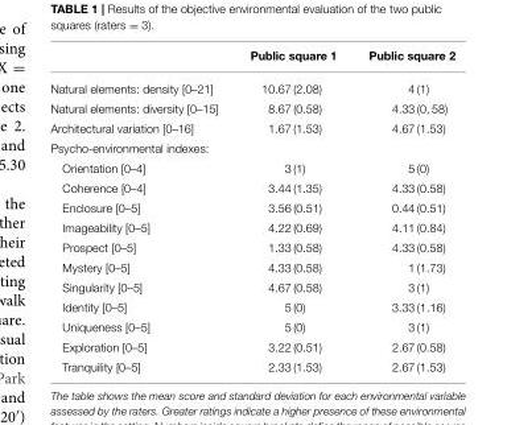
<table><thead><tr><td></td><td>Public square 1</td><td>Public square 2</td></tr></thead><tbody><tr><td>Natural elements: density [0–21]</td><td>10.67 (2.08)</td><td>4 (1)</td></tr><tr><td>Natural elements: diversity [0–15]</td><td>8.67 (0.58)</td><td>4.33 (0, 58)</td></tr><tr><td>Architectural variation [0–16]</td><td>1.67 (1.53)</td><td>4.67 (1.53)</td></tr><tr><td colspan="3">Psycho-environmental indexes:</td></tr><tr><td>Orientation [0–4]</td><td>3 (1)</td><td>5 (0)</td></tr><tr><td>Coherence [0–4]</td><td>3.44 (1.35)</td><td>4.33 (0.58)</td></tr><tr><td>Enclosure [0–5]</td><td>3.56 (0.51)</td><td>0.44 (0.51)</td></tr><tr><td>Imageability [0–5]</td><td>4.22 (0.69)</td><td>4.11 (0.84)</td></tr><tr><td>Prospect [0–5]</td><td>1.33 (0.58)</td><td>4.33 (0.58)</td></tr><tr><td>Mystery [0–5]</td><td>4.33 (0.58)</td><td>1 (1.73)</td></tr><tr><td>Singularity [0–5]</td><td>4.67 (0.58)</td><td>3 (1)</td></tr><tr><td>Identity [0–5]</td><td>5 (0)</td><td>3.33 (1.16)</td></tr><tr><td>Uniqueness [0–5]</td><td>5 (0)</td><td>3 (1)</td></tr><tr><td>Exploration [0–5]</td><td>3.22 (0.51)</td><td>2.67 (0.58)</td></tr><tr><td>Tranquility [0–5]</td><td>2.33 (1.53)</td><td>2.67 (1.53)</td></tr></tbody></table>